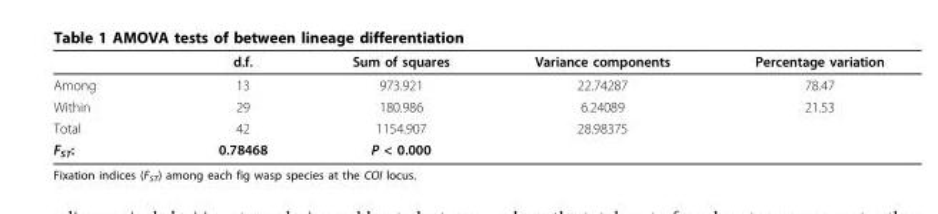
<table><thead><tr><td></td><td>d.f.</td><td>Sum of squares</td><td>Variance components</td><td>Percentage variation</td></tr></thead><tbody><tr><td>Among</td><td>13</td><td>973.921</td><td>22.74287</td><td>78.47</td></tr><tr><td>Within</td><td>29</td><td>180.986</td><td>6.24089</td><td>21.53</td></tr><tr><td>Total</td><td>42</td><td>1154.907</td><td>28.98375</td><td></td></tr><tr><td>F<sub>ST</sub>:</td><td>0.78468</td><td>P &lt; 0.000</td><td></td><td></td></tr></tbody></table>